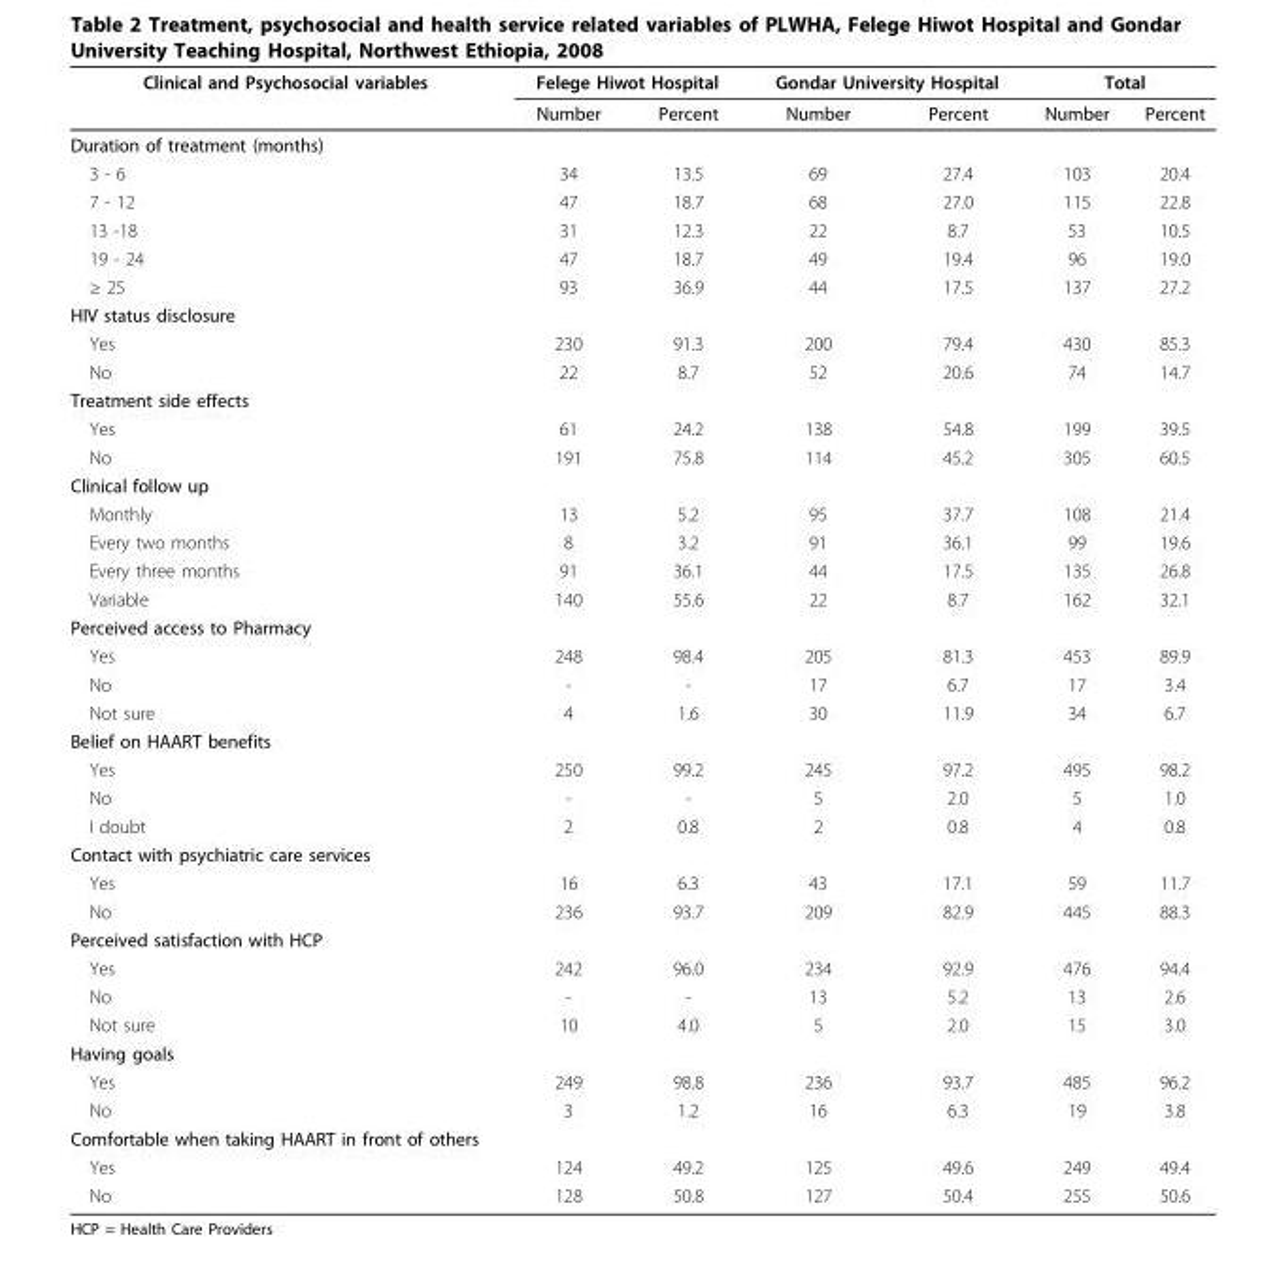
<table><thead><tr><td rowspan="2">Clinical and Psychosocial variables</td><td colspan="2">Felege Hiwot Hospital</td><td colspan="2">Gondar University Hospital</td><td colspan="2">Total</td></tr><tr><td>Number</td><td>Percent</td><td>Number</td><td>Percent</td><td>Number</td><td>Percent</td></tr></thead><tbody><tr><td colspan="7">Duration of treatment (months)</td></tr><tr><td>3 - 6</td><td>34</td><td>13.5</td><td>69</td><td>27.4</td><td>103</td><td>20.4</td></tr><tr><td>7 - 12</td><td>47</td><td>18.7</td><td>68</td><td>27.0</td><td>115</td><td>22.8</td></tr><tr><td>13 -18</td><td>31</td><td>12.3</td><td>22</td><td>8.7</td><td>53</td><td>10.5</td></tr><tr><td>19 - 24</td><td>47</td><td>18.7</td><td>49</td><td>19.4</td><td>96</td><td>19.0</td></tr><tr><td>≥ 25</td><td>93</td><td>36.9</td><td>44</td><td>17.5</td><td>137</td><td>27.2</td></tr><tr><td colspan="7">HIV status disclosure</td></tr><tr><td>Yes</td><td>230</td><td>91.3</td><td>200</td><td>79.4</td><td>430</td><td>85.3</td></tr><tr><td>No</td><td>22</td><td>8.7</td><td>52</td><td>20.6</td><td>74</td><td>14.7</td></tr><tr><td colspan="7">Treatment side effects</td></tr><tr><td>Yes</td><td>61</td><td>24.2</td><td>138</td><td>54.8</td><td>199</td><td>39.5</td></tr><tr><td>No</td><td>191</td><td>75.8</td><td>114</td><td>45.2</td><td>305</td><td>60.5</td></tr><tr><td colspan="7">Clinical follow up</td></tr><tr><td>Monthly</td><td>13</td><td>5.2</td><td>95</td><td>37.7</td><td>108</td><td>21.4</td></tr><tr><td>Every two months</td><td>8</td><td>3.2</td><td>91</td><td>36.1</td><td>99</td><td>19.6</td></tr><tr><td>Every three months</td><td>91</td><td>36.1</td><td>44</td><td>17.5</td><td>135</td><td>26.8</td></tr><tr><td>Variable</td><td>140</td><td>55.6</td><td>22</td><td>8.7</td><td>162</td><td>32.1</td></tr><tr><td colspan="7">Perceived access to Pharmacy</td></tr><tr><td>Yes</td><td>248</td><td>98.4</td><td>205</td><td>81.3</td><td>453</td><td>89.9</td></tr><tr><td>No</td><td>-</td><td>-</td><td>17</td><td>6.7</td><td>17</td><td>3.4</td></tr><tr><td>Not sure</td><td>4</td><td>1.6</td><td>30</td><td>11.9</td><td>34</td><td>6.7</td></tr><tr><td colspan="7">Belief on HAART benefits</td></tr><tr><td>Yes</td><td>250</td><td>99.2</td><td>245</td><td>97.2</td><td>495</td><td>98.2</td></tr><tr><td>No</td><td>-</td><td>-</td><td>5</td><td>2.0</td><td>5</td><td>1.0</td></tr><tr><td>I doubt</td><td>2</td><td>0.8</td><td>2</td><td>0.8</td><td>4</td><td>0.8</td></tr><tr><td colspan="7">Contact with psychiatric care services</td></tr><tr><td>Yes</td><td>16</td><td>6.3</td><td>43</td><td>17.1</td><td>59</td><td>11.7</td></tr><tr><td>No</td><td>236</td><td>93.7</td><td>209</td><td>82.9</td><td>445</td><td>88.3</td></tr><tr><td colspan="7">Perceived satisfaction with HCP</td></tr><tr><td>Yes</td><td>242</td><td>96.0</td><td>234</td><td>92.9</td><td>476</td><td>94.4</td></tr><tr><td>No</td><td>-</td><td>-</td><td>13</td><td>5.2</td><td>13</td><td>2.6</td></tr><tr><td>Not sure</td><td>10</td><td>4.0</td><td>5</td><td>2.0</td><td>15</td><td>3.0</td></tr><tr><td colspan="7">Having goals</td></tr><tr><td>Yes</td><td>249</td><td>98.8</td><td>236</td><td>93.7</td><td>485</td><td>96.2</td></tr><tr><td>No</td><td>3</td><td>1.2</td><td>16</td><td>6.3</td><td>19</td><td>3.8</td></tr><tr><td colspan="7">Comfortable when taking HAART in front of others</td></tr><tr><td>Yes</td><td>124</td><td>49.2</td><td>125</td><td>49.6</td><td>249</td><td>49.4</td></tr><tr><td>No</td><td>128</td><td>50.8</td><td>127</td><td>50.4</td><td>255</td><td>50.6</td></tr></tbody></table>